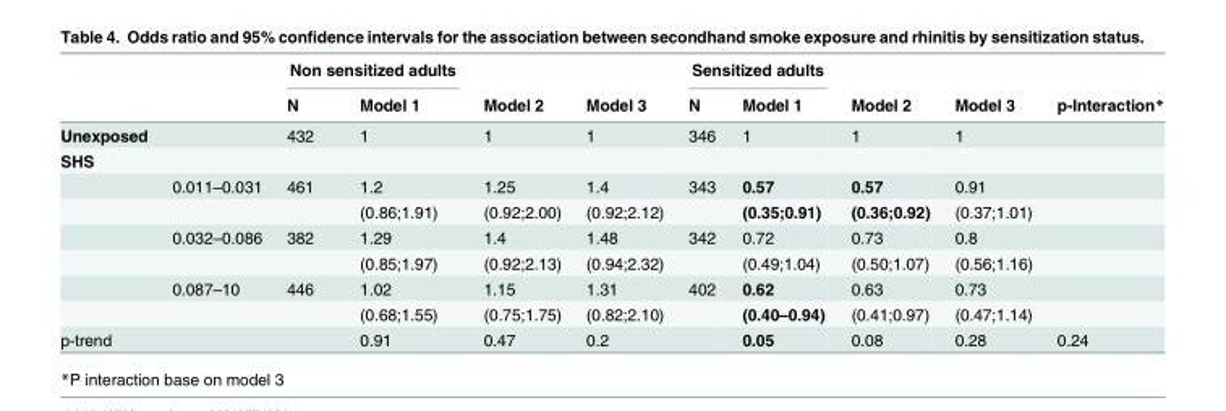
<table><thead><tr><td rowspan="2"></td><td rowspan="2"></td><td colspan="2">Non sensitized adults</td><td rowspan="2">Model 2</td><td rowspan="2">Model 3</td><td colspan="2">Sensitized adults</td><td rowspan="2">Model 2</td><td rowspan="2">Model 3</td><td rowspan="2">p-Interaction*</td></tr><tr><td>N</td><td>Model 1</td><td>N</td><td>Model 1</td></tr></thead><tbody><tr><td>Unexposed</td><td></td><td>432</td><td>1</td><td>1</td><td>1</td><td>346</td><td>1</td><td>1</td><td>1</td><td></td></tr><tr><td colspan="11">SHS</td></tr><tr><td></td><td>0.011–0.031</td><td>461</td><td>1.2</td><td>1.25</td><td>1.4</td><td>343</td><td>0.57</td><td>0.57</td><td>0.91</td><td></td></tr><tr><td></td><td></td><td></td><td>(0.86;1.91)</td><td>(0.92;2.00)</td><td>(0.92;2.12)</td><td></td><td>(0.35;0.91)</td><td>(0.36;0.92)</td><td>(0.37;1.01)</td><td></td></tr><tr><td></td><td>0.032–0.086</td><td>382</td><td>1.29</td><td>1.4</td><td>1.48</td><td>342</td><td>0.72</td><td>0.73</td><td>0.8</td><td></td></tr><tr><td></td><td></td><td></td><td>(0.85;1.97)</td><td>(0.92;2.13)</td><td>(0.94;2.32)</td><td></td><td>(0.49;1.04)</td><td>(0.50;1.07)</td><td>(0.56;1.16)</td><td></td></tr><tr><td></td><td>0.087–10</td><td>446</td><td>1.02</td><td>1.15</td><td>1.31</td><td>402</td><td>0.62</td><td>0.63</td><td>0.73</td><td></td></tr><tr><td></td><td></td><td></td><td>(0.68;1.55)</td><td>(0.75;1.75)</td><td>(0.82;2.10)</td><td></td><td>(0.40–0.94)</td><td>(0.41;0.97)</td><td>(0.47;1.14)</td><td></td></tr><tr><td>p-trend</td><td></td><td></td><td>0.91</td><td>0.47</td><td>0.2</td><td></td><td>0.05</td><td>0.08</td><td>0.28</td><td>0.24</td></tr></tbody></table>